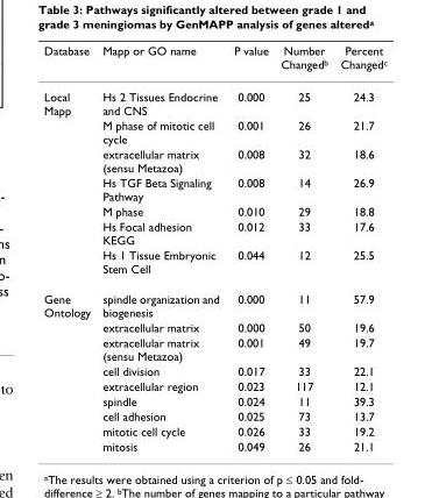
<table><thead><tr><td>Database</td><td>Mapp or GO name</td><td>P value</td><td>Number Changed<sup>b</sup></td><td>Percent Changed<sup>c</sup></td></tr></thead><tbody><tr><td rowspan="7">Local Mapp</td><td>Hs 2 Tissues Endocrine and CNS</td><td>0.000</td><td>25</td><td>24.3</td></tr><tr><td>M phase of mitotic cell cycle</td><td>0.001</td><td>26</td><td>21.7</td></tr><tr><td>extracellular matrix (sensu Metazoa)</td><td>0.008</td><td>32</td><td>18.6</td></tr><tr><td>Hs TGF Beta Signaling Pathway</td><td>0.008</td><td>14</td><td>26.9</td></tr><tr><td>M phase</td><td>0.010</td><td>29</td><td>18.8</td></tr><tr><td>Hs Focal adhesion KEGG</td><td>0.012</td><td>33</td><td>17.6</td></tr><tr><td>Hs 1 Tissue Embryonic Stem Cell</td><td>0.044</td><td>12</td><td>25.5</td></tr><tr><td rowspan="9">Gene Ontology</td><td>spindle organization and biogenesis</td><td>0.000</td><td>11</td><td>57.9</td></tr><tr><td>extracellular matrix</td><td>0.000</td><td>50</td><td>19.6</td></tr><tr><td>extracellular matrix (sensu Metazoa)</td><td>0.001</td><td>49</td><td>19.7</td></tr><tr><td>cell division</td><td>0.017</td><td>33</td><td>22.1</td></tr><tr><td>extracellular region</td><td>0.023</td><td>117</td><td>12.1</td></tr><tr><td>spindle</td><td>0.024</td><td>11</td><td>39.3</td></tr><tr><td>cell adhesion</td><td>0.025</td><td>73</td><td>13.7</td></tr><tr><td>mitotic cell cycle</td><td>0.026</td><td>33</td><td>19.2</td></tr><tr><td>mitosis</td><td>0.049</td><td>26</td><td>21.1</td></tr></tbody></table>